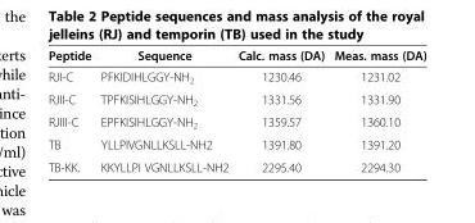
<table><thead><tr><td>Peptide</td><td>Sequence</td><td>Calc. mass (DA)</td><td>Meas. mass (DA)</td></tr></thead><tbody><tr><td>RJI-C</td><td>PFKIDIHLGGY-NH<sub>2</sub></td><td>1230.46</td><td>1231.02</td></tr><tr><td>RJII-C</td><td>TPFKISIHLGGY-NH<sub>2</sub></td><td>1331.56</td><td>1331.90</td></tr><tr><td>RJIII-C</td><td>EPFKISIHLGGY-NH<sub>2</sub></td><td>1359.57</td><td>1360.10</td></tr><tr><td>TB</td><td>YLLPIVGNLLKSLL-NH2</td><td>1391.80</td><td>1391.20</td></tr><tr><td>TB-KK.</td><td>KKYLLPI VGNLLKSLL-NH2</td><td>2295.40</td><td>2294.30</td></tr></tbody></table>